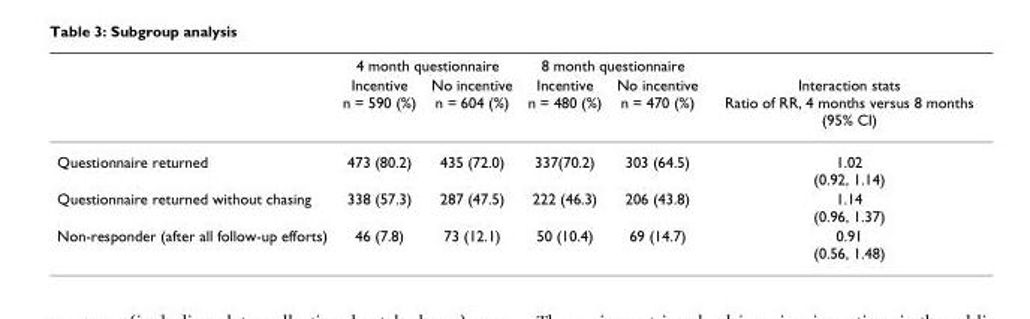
<table><thead><tr><td rowspan="2"></td><td colspan="2">4 month questionnaire</td><td colspan="2">8 month questionnaire</td><td rowspan="2">Interaction stats Ratio of RR, 4 months versus 8 months (95% CI)</td></tr><tr><td>Incentive n = 590 (%)</td><td>No incentive n = 604 (%)</td><td>Incentive n = 480 (%)</td><td>No incentive n = 470 (%)</td></tr></thead><tbody><tr><td>Questionnaire returned</td><td>473 (80.2)</td><td>435 (72.0)</td><td>337(70.2)</td><td>303 (64.5)</td><td>1.02 (0.92, 1.14)</td></tr><tr><td>Questionnaire returned without chasing</td><td>338 (57.3)</td><td>287 (47.5)</td><td>222 (46.3)</td><td>206 (43.8)</td><td>1.14 (0.96, 1.37)</td></tr><tr><td>Non-responder (after all follow-up efforts)</td><td>46 (7.8)</td><td>73 (12.1)</td><td>50 (10.4)</td><td>69 (14.7)</td><td>0.91 (0.56, 1.48)</td></tr></tbody></table>